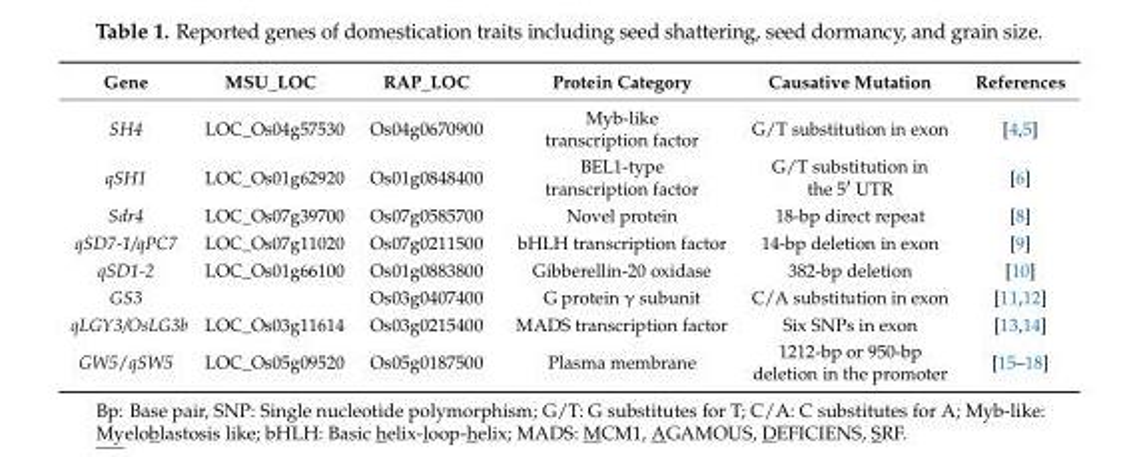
<table><thead><tr><td>Gene</td><td>MSU_LOC</td><td>RAP_LOC</td><td>Protein Category</td><td>Causative Mutation</td><td>References</td></tr></thead><tbody><tr><td>SH4</td><td>LOC_Os04g57530</td><td>Os04g0670900</td><td>Myb-like transcription factor</td><td>G/T substitution in exon</td><td>[4,5]</td></tr><tr><td>qSH1</td><td>LOC_Os01g62920</td><td>Os01g0848400</td><td>BEL1-type transcription factor</td><td>G/T substitution in the 5′ UTR</td><td>[6]</td></tr><tr><td>Sdr4</td><td>LOC_Os07g39700</td><td>Os07g0585700</td><td>Novel protein</td><td>18-bp direct repeat</td><td>[8]</td></tr><tr><td>qSD7-1/qPC7</td><td>LOC_Os07g11020</td><td>Os07g0211500</td><td>bHLH transcription factor</td><td>14-bp deletion in exon</td><td>[9]</td></tr><tr><td>qSD1-2</td><td>LOC_Os01g66100</td><td>Os01g0883800</td><td>Gibberellin-20 oxidase</td><td>382-bp deletion</td><td>[10]</td></tr><tr><td>GS3</td><td></td><td>Os03g0407400</td><td>G protein γ subunit</td><td>C/A substitution in exon</td><td>[11,12]</td></tr><tr><td>qLGY3/OsLG3b</td><td>LOC_Os03g11614</td><td>Os03g0215400</td><td>MADS transcription factor</td><td>Six SNPs in exon</td><td>[13,14]</td></tr><tr><td>GW5/qSW5</td><td>LOC_Os05g09520</td><td>Os05g0187500</td><td>Plasma membrane</td><td>1212-bp or 950-bp deletion in the promoter</td><td>[15–18]</td></tr></tbody></table>